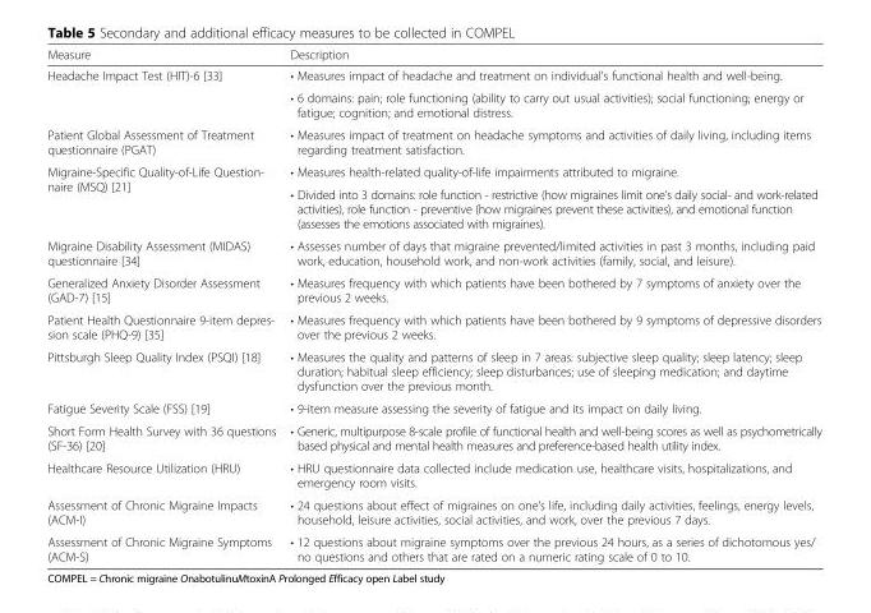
<table><thead><tr><td>Measure</td><td>Description</td></tr></thead><tbody><tr><td rowspan="2">Headache Impact Test (HIT)-6 [33]</td><td>• Measures impact of headache and treatment on individual&#x27;s functional health and well-being.</td></tr><tr><td>• 6 domains: pain; role functioning (ability to carry out usual activities); social functioning; energy or fatigue; cognition; and emotional distress.</td></tr><tr><td>Patient Global Assessment of Treatment questionnaire (PGAT)</td><td>• Measures impact of treatment on headache symptoms and activities of daily living, including items regarding treatment satisfaction.</td></tr><tr><td rowspan="2">Migraine-Specific Quality-of-Life Question- naire (MSQ) [21]</td><td>• Measures health-related quality-of-life impairments attributed to migraine.</td></tr><tr><td>• Divided into 3 domains: role function - restrictive (how migraines limit one’s daily social- and work-related activities), role function - preventive (how migraines prevent these activities), and emotional function (assesses the emotions associated with migraines).</td></tr><tr><td>Migraine Disability Assessment (MIDAS) questionnaire [34]</td><td>• Assesses number of days that migraine prevented/limited activities in past 3 months, including paid work, education, household work, and non-work activities (family, social, and leisure).</td></tr><tr><td>Generalized Anxiety Disorder Assessment (GAD-7) [15]</td><td>• Measures frequency with which patients have been bothered by 7 symptoms of anxiety over the previous 2 weeks.</td></tr><tr><td>Patient Health Questionnaire 9-item depres- sion scale (PHQ-9) [35]</td><td>• Measures frequency with which patients have been bothered by 9 symptoms of depressive disorders over the previous 2 weeks.</td></tr><tr><td>Pittsburgh Sleep Quality Index (PSQI) [18]</td><td>• Measures the quality and patterns of sleep in 7 areas: subjective sleep quality; sleep latency; sleep duration; habitual sleep efficiency; sleep disturbances; use of sleeping medication; and daytime dysfunction over the previous month.</td></tr><tr><td>Fatigue Severity Scale (FSS) [19]</td><td>• 9-item measure assessing the severity of fatigue and its impact on daily living.</td></tr><tr><td>Short Form Health Survey with 36 questions (SF-36) [20]</td><td>• Generic, multipurpose 8-scale profile of functional health and well-being scores as well as psychometrically based physical and mental health measures and preference-based health utility index.</td></tr><tr><td>Healthcare Resource Utilization (HRU)</td><td>• HRU questionnaire data collected include medication use, healthcare visits, hospitalizations, and emergency room visits.</td></tr><tr><td>Assessment of Chronic Migraine Impacts (ACM-I)</td><td>• 24 questions about effect of migraines on one’s life, including daily activities, feelings, energy levels, household, leisure activities, social activities, and work, over the previous 7 days.</td></tr><tr><td>Assessment of Chronic Migraine Symptoms (ACM-S)</td><td>• 12 questions about migraine symptoms over the previous 24 hours, as a series of dichotomous yes/ no questions and others that are rated on a numeric rating scale of 0 to 10.</td></tr></tbody></table>